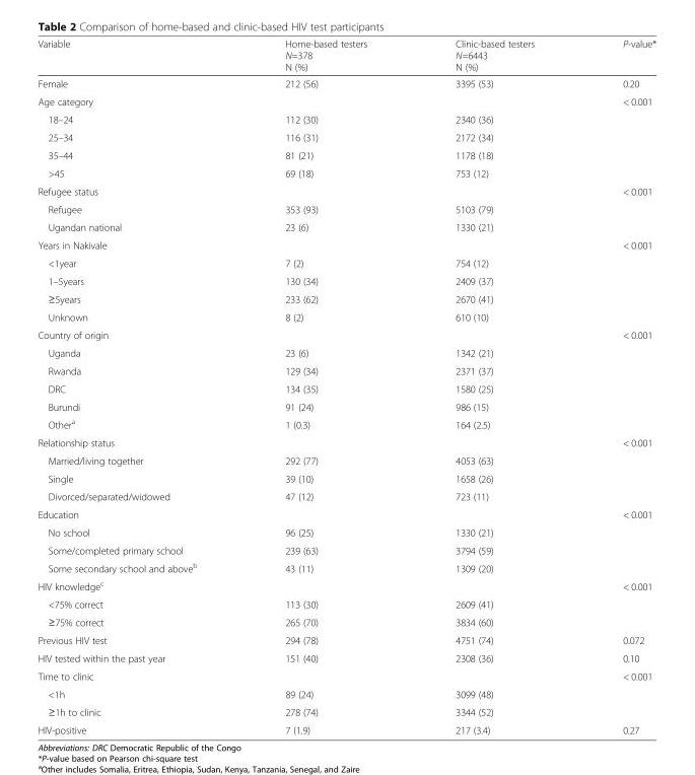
<table><thead><tr><td>Variable</td><td>Home-based testers N=378 N (%)</td><td>Clinic-based testers N=6443 N (%)</td><td>P-value*</td></tr></thead><tbody><tr><td>Female</td><td>212 (56)</td><td>3395 (53)</td><td>0.20</td></tr><tr><td>Age category</td><td></td><td></td><td>&lt; 0.001</td></tr><tr><td>18–24</td><td>112 (30)</td><td>2340 (36)</td><td></td></tr><tr><td>25–34</td><td>116 (31)</td><td>2172 (34)</td><td></td></tr><tr><td>35–44</td><td>81 (21)</td><td>1178 (18)</td><td></td></tr><tr><td>&gt;45</td><td>69 (18)</td><td>753 (12)</td><td></td></tr><tr><td>Refugee status</td><td></td><td></td><td>&lt; 0.001</td></tr><tr><td>Refugee</td><td>353 (93)</td><td>5103 (79)</td><td></td></tr><tr><td>Ugandan national</td><td>23 (6)</td><td>1330 (21)</td><td></td></tr><tr><td>Years in Nakivale</td><td></td><td></td><td>&lt; 0.001</td></tr><tr><td>&lt;1year</td><td>7 (2)</td><td>754 (12)</td><td></td></tr><tr><td>1–5years</td><td>130 (34)</td><td>2409 (37)</td><td></td></tr><tr><td>≥5years</td><td>233 (62)</td><td>2670 (41)</td><td></td></tr><tr><td>Unknown</td><td>8 (2)</td><td>610 (10)</td><td></td></tr><tr><td>Country of origin</td><td></td><td></td><td>&lt; 0.001</td></tr><tr><td>Uganda</td><td>23 (6)</td><td>1342 (21)</td><td></td></tr><tr><td>Rwanda</td><td>129 (34)</td><td>2371 (37)</td><td></td></tr><tr><td>DRC</td><td>134 (35)</td><td>1580 (25)</td><td></td></tr><tr><td>Burundi</td><td>91 (24)</td><td>986 (15)</td><td></td></tr><tr><td>Other<sup>a</sup></td><td>1 (0.3)</td><td>164 (2.5)</td><td></td></tr><tr><td>Relationship status</td><td></td><td></td><td>&lt; 0.001</td></tr><tr><td>Married/living together</td><td>292 (77)</td><td>4053 (63)</td><td></td></tr><tr><td>Single</td><td>39 (10)</td><td>1658 (26)</td><td></td></tr><tr><td>Divorced/separated/widowed</td><td>47 (12)</td><td>723 (11)</td><td></td></tr><tr><td>Education</td><td></td><td></td><td>&lt; 0.001</td></tr><tr><td>No school</td><td>96 (25)</td><td>1330 (21)</td><td></td></tr><tr><td>Some/completed primary school</td><td>239 (63)</td><td>3794 (59)</td><td></td></tr><tr><td>Some secondary school and above<sup>b</sup></td><td>43 (11)</td><td>1309 (20)</td><td></td></tr><tr><td>HIV knowledge<sup>c</sup></td><td></td><td></td><td>&lt; 0.001</td></tr><tr><td>&lt;75% correct</td><td>113 (30)</td><td>2609 (41)</td><td></td></tr><tr><td>≥75% correct</td><td>265 (70)</td><td>3834 (60)</td><td></td></tr><tr><td>Previous HIV test</td><td>294 (78)</td><td>4751 (74)</td><td>0.072</td></tr><tr><td>HIV tested within the past year</td><td>151 (40)</td><td>2308 (36)</td><td>0.10</td></tr><tr><td>Time to clinic</td><td></td><td></td><td>&lt; 0.001</td></tr><tr><td>&lt;1h</td><td>89 (24)</td><td>3099 (48)</td><td></td></tr><tr><td>≥1h to clinic</td><td>278 (74)</td><td>3344 (52)</td><td></td></tr><tr><td>HIV-positive</td><td>7 (1.9)</td><td>217 (3.4)</td><td>0.27</td></tr></tbody></table>